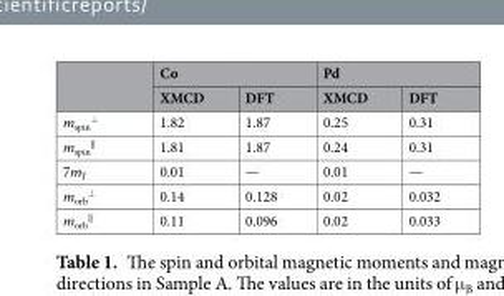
<table><thead><tr><td rowspan="2"></td><td colspan="2">Co</td><td colspan="2">Pd</td></tr><tr><td>XMCD</td><td>DFT</td><td>XMCD</td><td>DFT</td></tr></thead><tbody><tr><td>m<sub>spin</sub> <sup>⊥</sup></td><td>1.82</td><td>1.87</td><td>0.25</td><td>0.31</td></tr><tr><td>m<sub>spin</sub> <sup>‖</sup></td><td>1.81</td><td>1.87</td><td>0.24</td><td>0.31</td></tr><tr><td>7m<sub>T</sub></td><td>0.01</td><td>—</td><td>0.01</td><td>—</td></tr><tr><td>m<sub>orb</sub> <sup>⊥</sup></td><td>0.14</td><td>0.128</td><td>0.02</td><td>0.032</td></tr><tr><td>m<sub>orb</sub> <sup>‖</sup></td><td>0.11</td><td>0.096</td><td>0.02</td><td>0.033</td></tr></tbody></table>